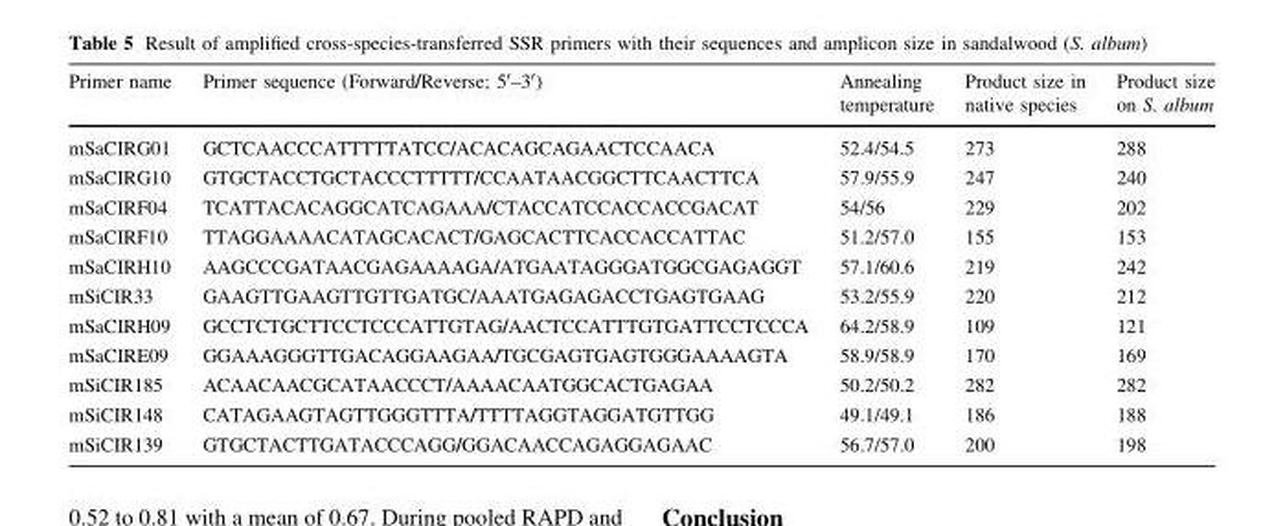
<table><thead><tr><td>Primer name</td><td>Primer sequence (Forward/Reverse; 5′–3′)</td><td>Annealing temperature</td><td>Product size in native species</td><td>Product size on S. album</td></tr></thead><tbody><tr><td>mSaCIRG01</td><td>GCTCAACCCATTTTTATCC/ACACAGCAGAACTCCAACA</td><td>52.4/54.5</td><td>273</td><td>288</td></tr><tr><td>mSaCIRG10</td><td>GTGCTACCTGCTACCCTTTTT/CCAATAACGGCTTCAACTTCA</td><td>57.9/55.9</td><td>247</td><td>240</td></tr><tr><td>mSaCIRF04</td><td>TCATTACACAGGCATCAGAAA/CTACCATCCACCACCGACAT</td><td>54/56</td><td>229</td><td>202</td></tr><tr><td>mSaCIRF10</td><td>TTAGGAAAACATAGCACACT/GAGCACTTCACCACCATTAC</td><td>51.2/57.0</td><td>155</td><td>153</td></tr><tr><td>mSaCIRH10</td><td>AAGCCCGATAACGAGAAAAGA/ATGAATAGGGATGGCGAGAGGT</td><td>57.1/60.6</td><td>219</td><td>242</td></tr><tr><td>mSiCIR33</td><td>GAAGTTGAAGTTGTTGATGC/AAATGAGAGACCTGAGTGAAG</td><td>53.2/55.9</td><td>220</td><td>212</td></tr><tr><td>mSaCIRH09</td><td>GCCTCTGCTTCCTCCCATTGTAG/AACTCCATTTGTGATTCCTCCCA</td><td>64.2/58.9</td><td>109</td><td>121</td></tr><tr><td>mSaCIRE09</td><td>GGAAAGGGTTGACAGGAAGAA/TGCGAGTGAGTGGGAAAAGTA</td><td>58.9/58.9</td><td>170</td><td>169</td></tr><tr><td>mSiCIR185</td><td>ACAACAACGCATAACCCT/AAAACAATGGCACTGAGAA</td><td>50.2/50.2</td><td>282</td><td>282</td></tr><tr><td>mSiCIR148</td><td>CATAGAAGTAGTTGGGTTTA/TTTTAGGTAGGATGTTGG</td><td>49.1/49.1</td><td>186</td><td>188</td></tr><tr><td>mSiCIR139</td><td>GTGCTACTTGATACCCAGG/GGACAACCAGAGGAGAAC</td><td>56.7/57.0</td><td>200</td><td>198</td></tr></tbody></table>